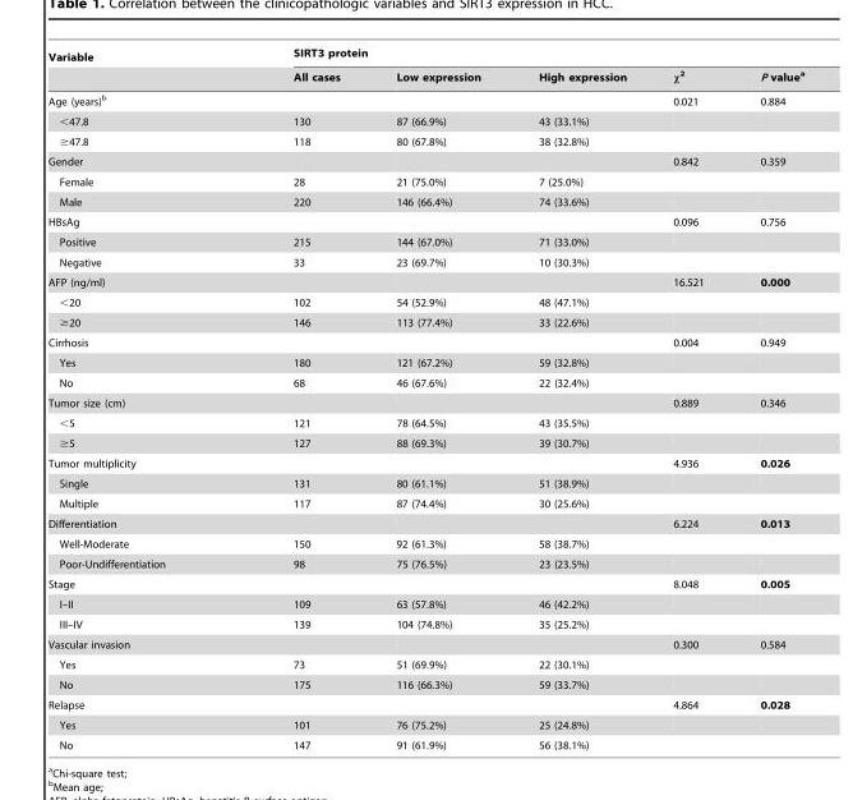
<table><thead><tr><td rowspan="2">Variable</td><td colspan="5">SIRT3 protein</td></tr><tr><td>All cases</td><td>Low expression</td><td>High expression</td><td>χ<sup>2</sup></td><td>P value<sup>a</sup></td></tr></thead><tbody><tr><td>Age (years)<sup>b</sup></td><td></td><td></td><td></td><td>0.021</td><td>0.884</td></tr><tr><td>&lt;47.8</td><td>130</td><td>87 (66.9%)</td><td>43 (33.1%)</td><td></td><td></td></tr><tr><td>≥47.8</td><td>118</td><td>80 (67.8%)</td><td>38 (32.8%)</td><td></td><td></td></tr><tr><td>Gender</td><td></td><td></td><td></td><td>0.842</td><td>0.359</td></tr><tr><td>Female</td><td>28</td><td>21 (75.0%)</td><td>7 (25.0%)</td><td></td><td></td></tr><tr><td>Male</td><td>220</td><td>146 (66.4%)</td><td>74 (33.6%)</td><td></td><td></td></tr><tr><td>HBsAg</td><td></td><td></td><td></td><td>0.096</td><td>0.756</td></tr><tr><td>Positive</td><td>215</td><td>144 (67.0%)</td><td>71 (33.0%)</td><td></td><td></td></tr><tr><td>Negative</td><td>33</td><td>23 (69.7%)</td><td>10 (30.3%)</td><td></td><td></td></tr><tr><td>AFP (ng/ml)</td><td></td><td></td><td></td><td>16.521</td><td>0.000</td></tr><tr><td>&lt;20</td><td>102</td><td>54 (52.9%)</td><td>48 (47.1%)</td><td></td><td></td></tr><tr><td>≥20</td><td>146</td><td>113 (77.4%)</td><td>33 (22.6%)</td><td></td><td></td></tr><tr><td>Cirrhosis</td><td></td><td></td><td></td><td>0.004</td><td>0.949</td></tr><tr><td>Yes</td><td>180</td><td>121 (67.2%)</td><td>59 (32.8%)</td><td></td><td></td></tr><tr><td>No</td><td>68</td><td>46 (67.6%)</td><td>22 (32.4%)</td><td></td><td></td></tr><tr><td>Tumor size (cm)</td><td></td><td></td><td></td><td>0.889</td><td>0.346</td></tr><tr><td>&lt;5</td><td>121</td><td>78 (64.5%)</td><td>43 (35.5%)</td><td></td><td></td></tr><tr><td>≥5</td><td>127</td><td>88 (69.3%)</td><td>39 (30.7%)</td><td></td><td></td></tr><tr><td>Tumor multiplicity</td><td></td><td></td><td></td><td>4.936</td><td>0.026</td></tr><tr><td>Single</td><td>131</td><td>80 (61.1%)</td><td>51 (38.9%)</td><td></td><td></td></tr><tr><td>Multiple</td><td>117</td><td>87 (74.4%)</td><td>30 (25.6%)</td><td></td><td></td></tr><tr><td>Differentiation</td><td></td><td></td><td></td><td>6.224</td><td>0.013</td></tr><tr><td>Well-Moderate</td><td>150</td><td>92 (61.3%)</td><td>58 (38.7%)</td><td></td><td></td></tr><tr><td>Poor-Undifferentiation</td><td>98</td><td>75 (76.5%)</td><td>23 (23.5%)</td><td></td><td></td></tr><tr><td>Stage</td><td></td><td></td><td></td><td>8.048</td><td>0.005</td></tr><tr><td>I–II</td><td>109</td><td>63 (57.8%)</td><td>46 (42.2%)</td><td></td><td></td></tr><tr><td>III–IV</td><td>139</td><td>104 (74.8%)</td><td>35 (25.2%)</td><td></td><td></td></tr><tr><td>Vascular invasion</td><td></td><td></td><td></td><td>0.300</td><td>0.584</td></tr><tr><td>Yes</td><td>73</td><td>51 (69.9%)</td><td>22 (30.1%)</td><td></td><td></td></tr><tr><td>No</td><td>175</td><td>116 (66.3%)</td><td>59 (33.7%)</td><td></td><td></td></tr><tr><td>Relapse</td><td></td><td></td><td></td><td>4.864</td><td>0.028</td></tr><tr><td>Yes</td><td>101</td><td>76 (75.2%)</td><td>25 (24.8%)</td><td></td><td></td></tr><tr><td>No</td><td>147</td><td>91 (61.9%)</td><td>56 (38.1%)</td><td></td><td></td></tr></tbody></table>